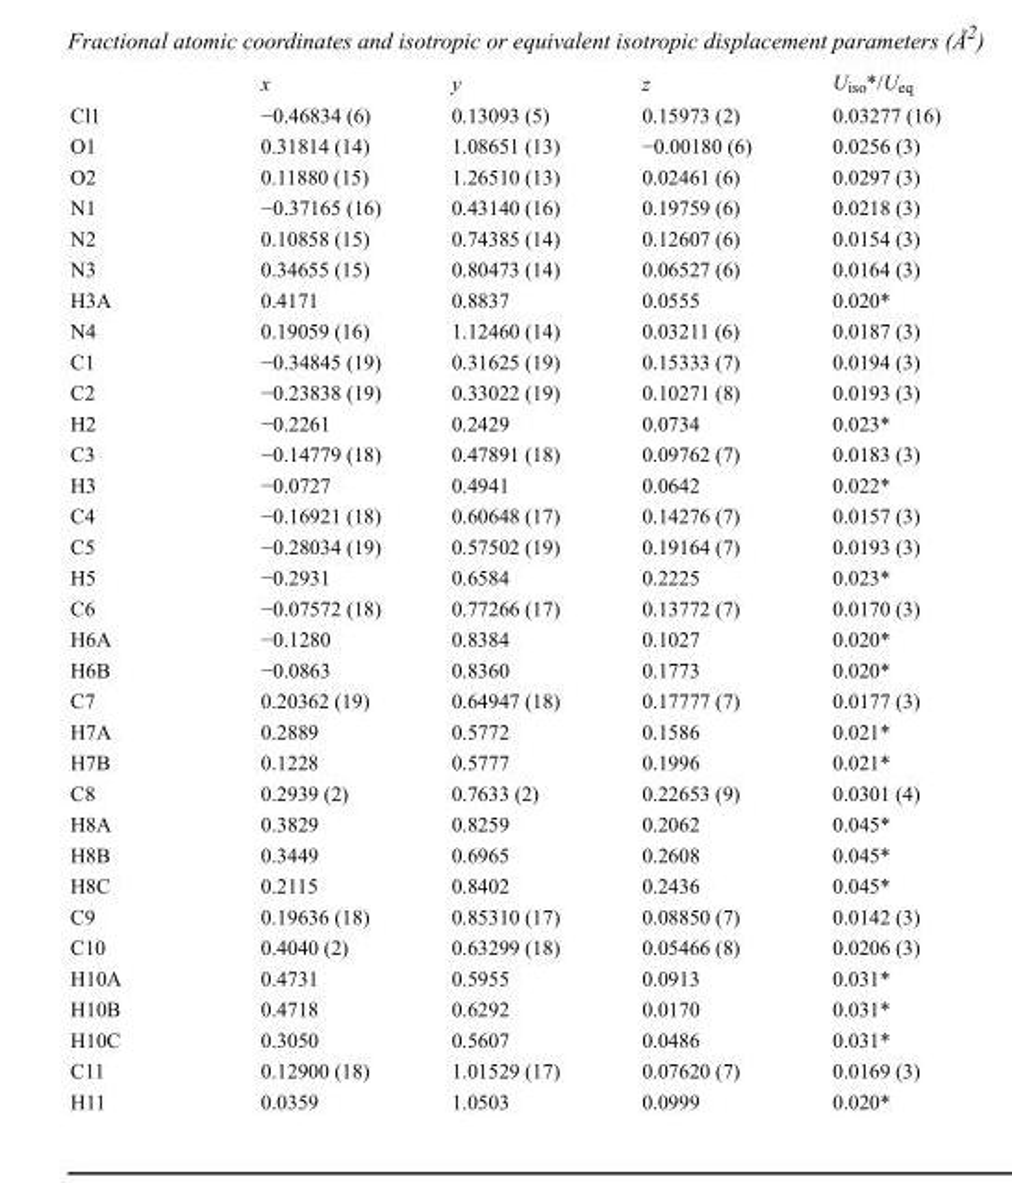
<table><thead><tr><td></td><td>x</td><td>y</td><td>z</td><td>U<sub>iso</sub>*/U<sub>eq</sub></td></tr></thead><tbody><tr><td>Cl1</td><td>−0.46834 (6)</td><td>0.13093 (5)</td><td>0.15973 (2)</td><td>0.03277 (16)</td></tr><tr><td>O1</td><td>0.31814 (14)</td><td>1.08651 (13)</td><td>−0.00180 (6)</td><td>0.0256 (3)</td></tr><tr><td>O2</td><td>0.11880 (15)</td><td>1.26510 (13)</td><td>0.02461 (6)</td><td>0.0297 (3)</td></tr><tr><td>N1</td><td>−0.37165 (16)</td><td>0.43140 (16)</td><td>0.19759 (6)</td><td>0.0218 (3)</td></tr><tr><td>N2</td><td>0.10858 (15)</td><td>0.74385 (14)</td><td>0.12607 (6)</td><td>0.0154 (3)</td></tr><tr><td>N3</td><td>0.34655 (15)</td><td>0.80473 (14)</td><td>0.06527 (6)</td><td>0.0164 (3)</td></tr><tr><td>H3A</td><td>0.4171</td><td>0.8837</td><td>0.0555</td><td>0.020*</td></tr><tr><td>N4</td><td>0.19059 (16)</td><td>1.12460 (14)</td><td>0.03211 (6)</td><td>0.0187 (3)</td></tr><tr><td>C1</td><td>−0.34845 (19)</td><td>0.31625 (19)</td><td>0.15333 (7)</td><td>0.0194 (3)</td></tr><tr><td>C2</td><td>−0.23838 (19)</td><td>0.33022 (19)</td><td>0.10271 (8)</td><td>0.0193 (3)</td></tr><tr><td>H2</td><td>−0.2261</td><td>0.2429</td><td>0.0734</td><td>0.023*</td></tr><tr><td>C3</td><td>−0.14779 (18)</td><td>0.47891 (18)</td><td>0.09762 (7)</td><td>0.0183 (3)</td></tr><tr><td>H3</td><td>−0.0727</td><td>0.4941</td><td>0.0642</td><td>0.022*</td></tr><tr><td>C4</td><td>−0.16921 (18)</td><td>0.60648 (17)</td><td>0.14276 (7)</td><td>0.0157 (3)</td></tr><tr><td>C5</td><td>−0.28034 (19)</td><td>0.57502 (19)</td><td>0.19164 (7)</td><td>0.0193 (3)</td></tr><tr><td>H5</td><td>−0.2931</td><td>0.6584</td><td>0.2225</td><td>0.023*</td></tr><tr><td>C6</td><td>−0.07572 (18)</td><td>0.77266 (17)</td><td>0.13772 (7)</td><td>0.0170 (3)</td></tr><tr><td>H6A</td><td>−0.1280</td><td>0.8384</td><td>0.1027</td><td>0.020*</td></tr><tr><td>H6B</td><td>−0.0863</td><td>0.8360</td><td>0.1773</td><td>0.020*</td></tr><tr><td>C7</td><td>0.20362 (19)</td><td>0.64947 (18)</td><td>0.17777 (7)</td><td>0.0177 (3)</td></tr><tr><td>H7A</td><td>0.2889</td><td>0.5772</td><td>0.1586</td><td>0.021*</td></tr><tr><td>H7B</td><td>0.1228</td><td>0.5777</td><td>0.1996</td><td>0.021*</td></tr><tr><td>C8</td><td>0.2939 (2)</td><td>0.7633 (2)</td><td>0.22653 (9)</td><td>0.0301 (4)</td></tr><tr><td>H8A</td><td>0.3829</td><td>0.8259</td><td>0.2062</td><td>0.045*</td></tr><tr><td>H8B</td><td>0.3449</td><td>0.6965</td><td>0.2608</td><td>0.045*</td></tr><tr><td>H8C</td><td>0.2115</td><td>0.8402</td><td>0.2436</td><td>0.045*</td></tr><tr><td>C9</td><td>0.19636 (18)</td><td>0.85310 (17)</td><td>0.08850 (7)</td><td>0.0142 (3)</td></tr><tr><td>C10</td><td>0.4040 (2)</td><td>0.63299 (18)</td><td>0.05466 (8)</td><td>0.0206 (3)</td></tr><tr><td>H10A</td><td>0.4731</td><td>0.5955</td><td>0.0913</td><td>0.031*</td></tr><tr><td>H10B</td><td>0.4718</td><td>0.6292</td><td>0.0170</td><td>0.031*</td></tr><tr><td>H10C</td><td>0.3050</td><td>0.5607</td><td>0.0486</td><td>0.031*</td></tr><tr><td>C11</td><td>0.12900 (18)</td><td>1.01529 (17)</td><td>0.07620 (7)</td><td>0.0169 (3)</td></tr><tr><td>H11</td><td>0.0359</td><td>1.0503</td><td>0.0999</td><td>0.020*</td></tr></tbody></table>